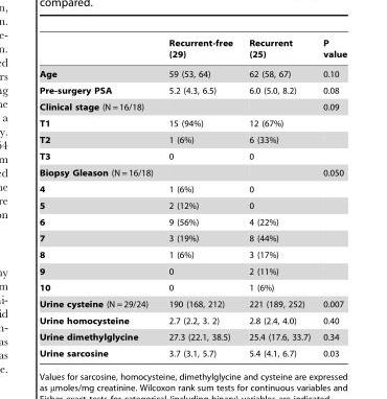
<table><thead><tr><td></td><td>Recurrent-free (29)</td><td>Recurrent (25)</td><td>P value</td></tr></thead><tbody><tr><td>Age</td><td>59 (53, 64)</td><td>62 (58, 67)</td><td>0.10</td></tr><tr><td>Pre-surgery PSA</td><td>5.2 (4.3, 6.5)</td><td>6.0 (5.0, 8.2)</td><td>0.08</td></tr><tr><td>Clinical stage (N = 16/18)</td><td></td><td></td><td>0.09</td></tr><tr><td>T1</td><td>15 (94%)</td><td>12 (67%)</td><td></td></tr><tr><td>T2</td><td>1 (6%)</td><td>6 (33%)</td><td></td></tr><tr><td>T3</td><td>0</td><td>0</td><td></td></tr><tr><td>Biopsy Gleason (N = 16/18)</td><td></td><td></td><td>0.050</td></tr><tr><td>4</td><td>1 (6%)</td><td>0</td><td></td></tr><tr><td>5</td><td>2 (12%)</td><td>0</td><td></td></tr><tr><td>6</td><td>9 (56%)</td><td>4 (22%)</td><td></td></tr><tr><td>7</td><td>3 (19%)</td><td>8 (44%)</td><td></td></tr><tr><td>8</td><td>1 (6%)</td><td>3 (17%)</td><td></td></tr><tr><td>9</td><td>0</td><td>2 (11%)</td><td></td></tr><tr><td>10</td><td>0</td><td>1 (6%)</td><td></td></tr><tr><td>Urine cysteine (N = 29/24)</td><td>190 (168, 212)</td><td>221 (189, 252)</td><td>0.007</td></tr><tr><td>Urine homocysteine</td><td>2.7 (2.2, 3. 2)</td><td>2.8 (2.4, 4.0)</td><td>0.40</td></tr><tr><td>Urine dimethylglycine</td><td>27.3 (22.1, 38.5)</td><td>25.4 (17.6, 33.7)</td><td>0.34</td></tr><tr><td>Urine sarcosine</td><td>3.7 (3.1, 5.7)</td><td>5.4 (4.1, 6.7)</td><td>0.03</td></tr></tbody></table>